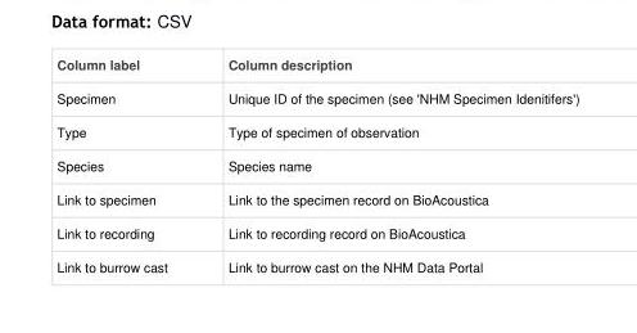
<table><thead><tr><td>Column label</td><td>Column description</td></tr></thead><tbody><tr><td>Specimen</td><td>Unique ID of the specimen (see &#x27;NHM Specimen Idenitifers&#x27;)</td></tr><tr><td>Type</td><td>Type of specimen of observation</td></tr><tr><td>Species</td><td>Species name</td></tr><tr><td>Link to specimen</td><td>Link to the specimen record on BioAcoustica</td></tr><tr><td>Link to recording</td><td>Link to recording record on BioAcoustica</td></tr><tr><td>Link to burrow cast</td><td>Link to burrow cast on the NHM Data Portal</td></tr></tbody></table>